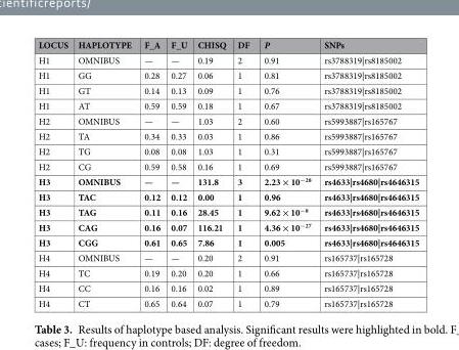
<table><thead><tr><td>LOCUS</td><td>HAPLOTYPE</td><td>F_A</td><td>F_U</td><td>CHISQ</td><td>DF</td><td>P</td><td>SNPs</td></tr></thead><tbody><tr><td>H1</td><td>OMNIBUS</td><td>—</td><td>—</td><td>0.19</td><td>2</td><td>0.91</td><td>rs3788319|rs8185002</td></tr><tr><td>H1</td><td>GG</td><td>0.28</td><td>0.27</td><td>0.06</td><td>1</td><td>0.81</td><td>rs3788319|rs8185002</td></tr><tr><td>H1</td><td>GT</td><td>0.14</td><td>0.13</td><td>0.09</td><td>1</td><td>0.76</td><td>rs3788319|rs8185002</td></tr><tr><td>H1</td><td>AT</td><td>0.59</td><td>0.59</td><td>0.18</td><td>1</td><td>0.67</td><td>rs3788319|rs8185002</td></tr><tr><td>H2</td><td>OMNIBUS</td><td>—</td><td>—</td><td>1.03</td><td>2</td><td>0.60</td><td>rs5993887|rs165767</td></tr><tr><td>H2</td><td>TA</td><td>0.34</td><td>0.33</td><td>0.03</td><td>1</td><td>0.86</td><td>rs5993887|rs165767</td></tr><tr><td>H2</td><td>TG</td><td>0.08</td><td>0.08</td><td>1.03</td><td>1</td><td>0.31</td><td>rs5993887|rs165767</td></tr><tr><td>H2</td><td>CG</td><td>0.59</td><td>0.58</td><td>0.16</td><td>1</td><td>0.69</td><td>rs5993887|rs165767</td></tr><tr><td>H3</td><td>OMNIBUS</td><td>—</td><td>—</td><td>131.8</td><td>3</td><td>2.23 × 10<sup>−28</sup></td><td>rs4633|rs4680|rs4646315</td></tr><tr><td>H3</td><td>TAC</td><td>0.12</td><td>0.12</td><td>0.00</td><td>1</td><td>0.96</td><td>rs4633|rs4680|rs4646315</td></tr><tr><td>H3</td><td>TAG</td><td>0.11</td><td>0.16</td><td>28.45</td><td>1</td><td>9.62 × 10<sup>−8</sup></td><td>rs4633|rs4680|rs4646315</td></tr><tr><td>H3</td><td>CAG</td><td>0.16</td><td>0.07</td><td>116.21</td><td>1</td><td>4.36 × 10<sup>−27</sup></td><td>rs4633|rs4680|rs4646315</td></tr><tr><td>H3</td><td>CGG</td><td>0.61</td><td>0.65</td><td>7.86</td><td>1</td><td>0.005</td><td>rs4633|rs4680|rs4646315</td></tr><tr><td>H4</td><td>OMNIBUS</td><td>—</td><td>—</td><td>0.20</td><td>2</td><td>0.91</td><td>rs165737|rs165728</td></tr><tr><td>H4</td><td>TC</td><td>0.19</td><td>0.20</td><td>0.20</td><td>1</td><td>0.66</td><td>rs165737|rs165728</td></tr><tr><td>H4</td><td>CC</td><td>0.16</td><td>0.16</td><td>0.02</td><td>1</td><td>0.89</td><td>rs165737|rs165728</td></tr><tr><td>H4</td><td>CT</td><td>0.65</td><td>0.64</td><td>0.07</td><td>1</td><td>0.79</td><td>rs165737|rs165728</td></tr></tbody></table>